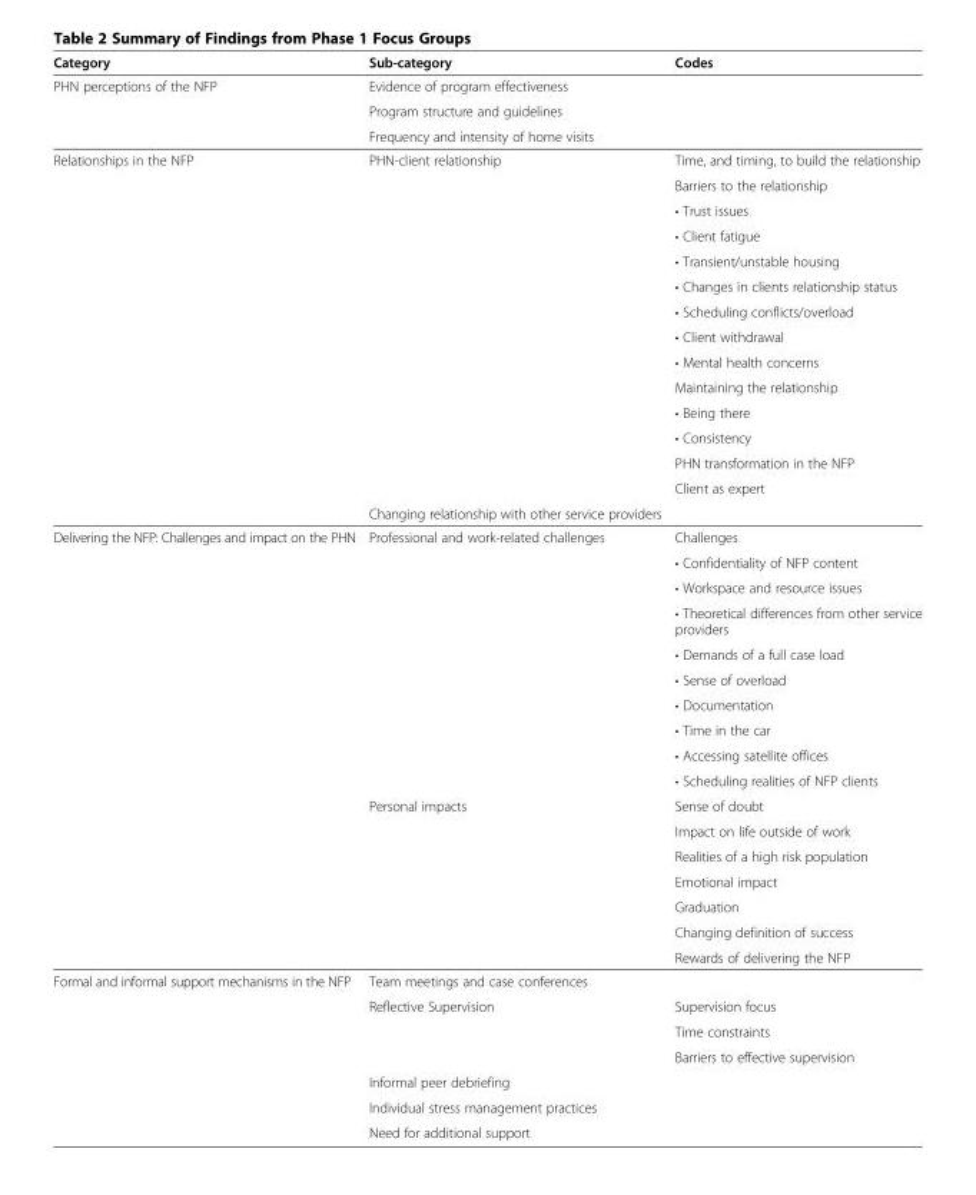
<table><thead><tr><td>Category</td><td>Sub-category</td><td>Codes</td></tr></thead><tbody><tr><td rowspan="3">PHN perceptions of the NFP</td><td colspan="2">Evidence of program effectiveness</td></tr><tr><td colspan="2">Program structure and guidelines</td></tr><tr><td colspan="2">Frequency and intensity of home visits</td></tr><tr><td rowspan="15">Relationships in the NFP</td><td rowspan="14">PHN-client relationship</td><td>Time, and timing, to build the relationship</td></tr><tr><td>Barriers to the relationship</td></tr><tr><td>• Trust issues</td></tr><tr><td>• Client fatigue</td></tr><tr><td>• Transient/unstable housing</td></tr><tr><td>• Changes in clients relationship status</td></tr><tr><td>• Scheduling conflicts/overload</td></tr><tr><td>• Client withdrawal</td></tr><tr><td>• Mental health concerns</td></tr><tr><td>Maintaining the relationship</td></tr><tr><td>• Being there</td></tr><tr><td>• Consistency</td></tr><tr><td>PHN transformation in the NFP</td></tr><tr><td>Client as expert</td></tr><tr><td>Changing relationship with other service providers</td><td></td></tr><tr><td rowspan="17">Delivering the NFP: Challenges and impact on the PHN</td><td rowspan="10">Professional and work-related challenges</td><td>Challenges</td></tr><tr><td>• Confidentiality of NFP content</td></tr><tr><td>• Workspace and resource issues</td></tr><tr><td>• Theoretical differences from other service providers</td></tr><tr><td>• Demands of a full case load</td></tr><tr><td>• Sense of overload</td></tr><tr><td>• Documentation</td></tr><tr><td>• Time in the car</td></tr><tr><td>• Accessing satellite offices</td></tr><tr><td>• Scheduling realities of NFP clients</td></tr><tr><td rowspan="7">Personal impacts</td><td>Sense of doubt</td></tr><tr><td>Impact on life outside of work</td></tr><tr><td>Realities of a high risk population</td></tr><tr><td>Emotional impact</td></tr><tr><td>Graduation</td></tr><tr><td>Changing definition of success</td></tr><tr><td>Rewards of delivering the NFP</td></tr><tr><td rowspan="7">Formal and informal support mechanisms in the NFP</td><td>Team meetings and case conferences</td><td></td></tr><tr><td rowspan="3">Reflective Supervision</td><td>Supervision focus</td></tr><tr><td>Time constraints</td></tr><tr><td>Barriers to effective supervision</td></tr><tr><td>Informal peer debriefing</td><td></td></tr><tr><td>Individual stress management practices</td><td></td></tr><tr><td>Need for additional support</td><td></td></tr></tbody></table>